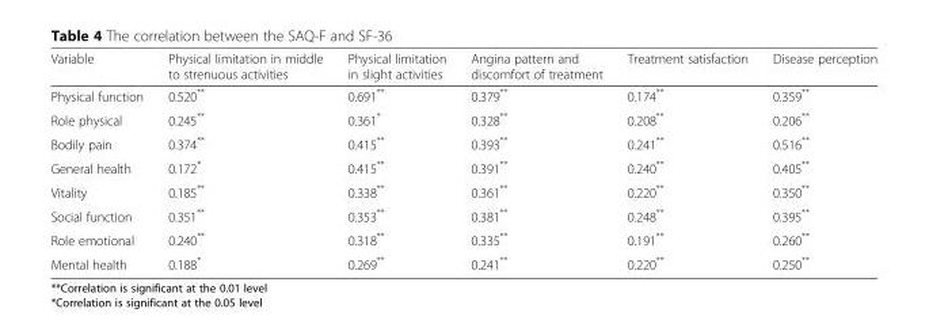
<table><thead><tr><td>Variable</td><td>Physical limitation in middle to strenuous activities</td><td>Physical limitation in slight activities</td><td>Angina pattern and discomfort of treatment</td><td>Treatment satisfaction</td><td>Disease perception</td></tr></thead><tbody><tr><td>Physical function</td><td>0.520**</td><td>0.691**</td><td>0.379**</td><td>0.174**</td><td>0.359**</td></tr><tr><td>Role physical</td><td>0.245**</td><td>0.361*</td><td>0.328**</td><td>0.208**</td><td>0.206**</td></tr><tr><td>Bodily pain</td><td>0.374**</td><td>0.415**</td><td>0.393**</td><td>0.241**</td><td>0.516**</td></tr><tr><td>General health</td><td>0.172*</td><td>0.415**</td><td>0.391**</td><td>0.240**</td><td>0.405**</td></tr><tr><td>Vitality</td><td>0.185**</td><td>0.338**</td><td>0.361**</td><td>0.220**</td><td>0.350**</td></tr><tr><td>Social function</td><td>0.351**</td><td>0.353**</td><td>0.381**</td><td>0.248**</td><td>0.395**</td></tr><tr><td>Role emotional</td><td>0.240**</td><td>0.318**</td><td>0.335**</td><td>0.191**</td><td>0.260**</td></tr><tr><td>Mental health</td><td>0.188*</td><td>0.269**</td><td>0.241**</td><td>0.220**</td><td>0.250**</td></tr></tbody></table>